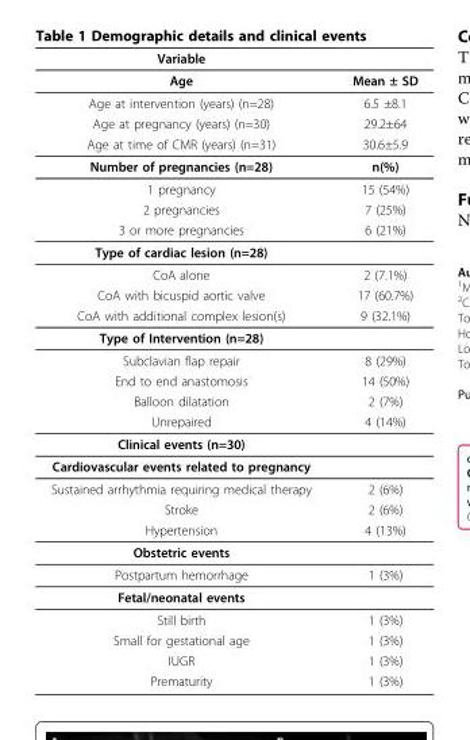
<table><thead><tr><td>Variable</td><td></td></tr></thead><tbody><tr><td>Age</td><td>Mean ± SD</td></tr><tr><td>Age at intervention (years) (n=28)</td><td>6.5 ±8.1</td></tr><tr><td>Age at pregnancy (years) (n=30)</td><td>29.2±64</td></tr><tr><td>Age at time of CMR (years) (n=31)</td><td>30.6±5.9</td></tr><tr><td>Number of pregnancies (n=28)</td><td>n(%)</td></tr><tr><td>1 pregnancy</td><td>15 (54%)</td></tr><tr><td>2 pregnancies</td><td>7 (25%)</td></tr><tr><td>3 or more pregnancies</td><td>6 (21%)</td></tr><tr><td colspan="2">Type of cardiac lesion (n=28)</td></tr><tr><td>CoA alone</td><td>2 (7.1%)</td></tr><tr><td>CoA with bicuspid aortic valve</td><td>17 (60.7%)</td></tr><tr><td>CoA with additional complex lesion(s)</td><td>9 (32.1%)</td></tr><tr><td colspan="2">Type of Intervention (n=28)</td></tr><tr><td>Subclavian flap repair</td><td>8 (29%)</td></tr><tr><td>End to end anastomosis</td><td>14 (50%)</td></tr><tr><td>Balloon dilatation</td><td>2 (7%)</td></tr><tr><td>Unrepaired</td><td>4 (14%)</td></tr><tr><td colspan="2">Clinical events (n=30)</td></tr><tr><td colspan="2">Cardiovascular events related to pregnancy</td></tr><tr><td>Sustained arrhythmia requiring medical therapy</td><td>2 (6%)</td></tr><tr><td>Stroke</td><td>2 (6%)</td></tr><tr><td>Hypertension</td><td>4 (13%)</td></tr><tr><td colspan="2">Obstetric events</td></tr><tr><td>Postpartum hemorrhage</td><td>1 (3%)</td></tr><tr><td colspan="2">Fetal/neonatal events</td></tr><tr><td>Still birth</td><td>1 (3%)</td></tr><tr><td>Small for gestational age</td><td>1 (3%)</td></tr><tr><td>IUGR</td><td>1 (3%)</td></tr><tr><td>Prematurity</td><td>1 (3%)</td></tr></tbody></table>